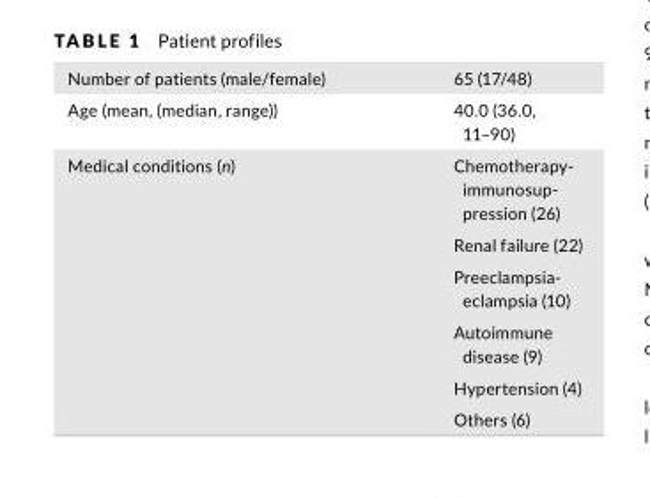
<table><tbody><tr><td>Number of patients (male/female)</td><td>65 (17/48)</td></tr><tr><td>Age (mean, (median, range))</td><td>40.0 (36.0, 11–90)</td></tr><tr><td rowspan="6">Medical conditions (n)</td><td>Chemotherapy- immunosup- pression (26)</td></tr><tr><td>Renal failure (22)</td></tr><tr><td>Preeclampsia- eclampsia (10)</td></tr><tr><td>Autoimmune disease (9)</td></tr><tr><td>Hypertension (4)</td></tr><tr><td>Others (6)</td></tr></tbody></table>